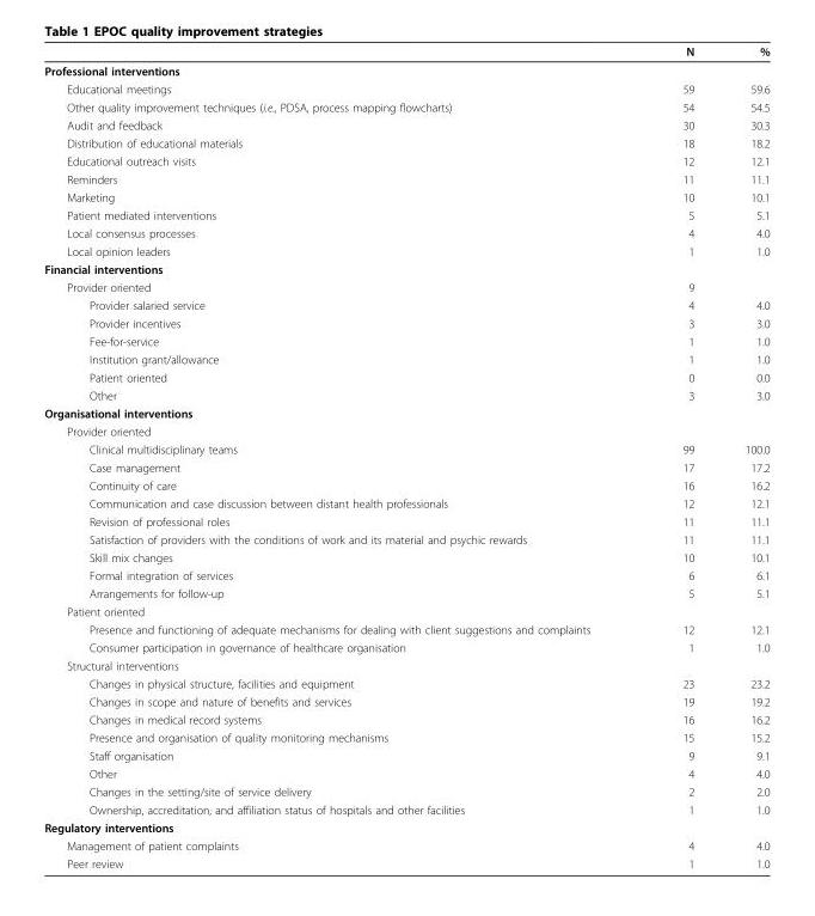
<table><thead><tr><td></td><td>N</td><td>%</td></tr></thead><tbody><tr><td colspan="3">Professional interventions</td></tr><tr><td>Educational meetings</td><td>59</td><td>59.6</td></tr><tr><td>Other quality improvement techniques (i.e., PDSA, process mapping flowcharts)</td><td>54</td><td>54.5</td></tr><tr><td>Audit and feedback</td><td>30</td><td>30.3</td></tr><tr><td>Distribution of educational materials</td><td>18</td><td>18.2</td></tr><tr><td>Educational outreach visits</td><td>12</td><td>12.1</td></tr><tr><td>Reminders</td><td>11</td><td>11.1</td></tr><tr><td>Marketing</td><td>10</td><td>10.1</td></tr><tr><td>Patient mediated interventions</td><td>5</td><td>5.1</td></tr><tr><td>Local consensus processes</td><td>4</td><td>4.0</td></tr><tr><td>Local opinion leaders</td><td>1</td><td>1.0</td></tr><tr><td colspan="3">Financial interventions</td></tr><tr><td>Provider oriented</td><td>9</td><td></td></tr><tr><td>Provider salaried service</td><td>4</td><td>4.0</td></tr><tr><td>Provider incentives</td><td>3</td><td>3.0</td></tr><tr><td>Fee-for-service</td><td>1</td><td>1.0</td></tr><tr><td>Institution grant/allowance</td><td>1</td><td>1.0</td></tr><tr><td>Patient oriented</td><td>0</td><td>0.0</td></tr><tr><td>Other</td><td>3</td><td>3.0</td></tr><tr><td colspan="3">Organisational interventions</td></tr><tr><td colspan="3">Provider oriented</td></tr><tr><td>Clinical multidisciplinary teams</td><td>99</td><td>100.0</td></tr><tr><td>Case management</td><td>17</td><td>17.2</td></tr><tr><td>Continuity of care</td><td>16</td><td>16.2</td></tr><tr><td>Communication and case discussion between distant health professionals</td><td>12</td><td>12.1</td></tr><tr><td>Revision of professional roles</td><td>11</td><td>11.1</td></tr><tr><td>Satisfaction of providers with the conditions of work and its material and psychic rewards</td><td>11</td><td>11.1</td></tr><tr><td>Skill mix changes</td><td>10</td><td>10.1</td></tr><tr><td>Formal integration of services</td><td>6</td><td>6.1</td></tr><tr><td>Arrangements for follow-up</td><td>5</td><td>5.1</td></tr><tr><td colspan="3">Patient oriented</td></tr><tr><td>Presence and functioning of adequate mechanisms for dealing with client suggestions and complaints</td><td>12</td><td>12.1</td></tr><tr><td>Consumer participation in governance of healthcare organisation</td><td>1</td><td>1.0</td></tr><tr><td colspan="3">Structural interventions</td></tr><tr><td>Changes in physical structure, facilities and equipment</td><td>23</td><td>23.2</td></tr><tr><td>Changes in scope and nature of benefits and services</td><td>19</td><td>19.2</td></tr><tr><td>Changes in medical record systems</td><td>16</td><td>16.2</td></tr><tr><td>Presence and organisation of quality monitoring mechanisms</td><td>15</td><td>15.2</td></tr><tr><td>Staff organisation</td><td>9</td><td>9.1</td></tr><tr><td>Other</td><td>4</td><td>4.0</td></tr><tr><td>Changes in the setting/site of service delivery</td><td>2</td><td>2.0</td></tr><tr><td>Ownership, accreditation, and affiliation status of hospitals and other facilities</td><td>1</td><td>1.0</td></tr><tr><td colspan="3">Regulatory interventions</td></tr><tr><td>Management of patient complaints</td><td>4</td><td>4.0</td></tr><tr><td>Peer review</td><td>1</td><td>1.0</td></tr></tbody></table>